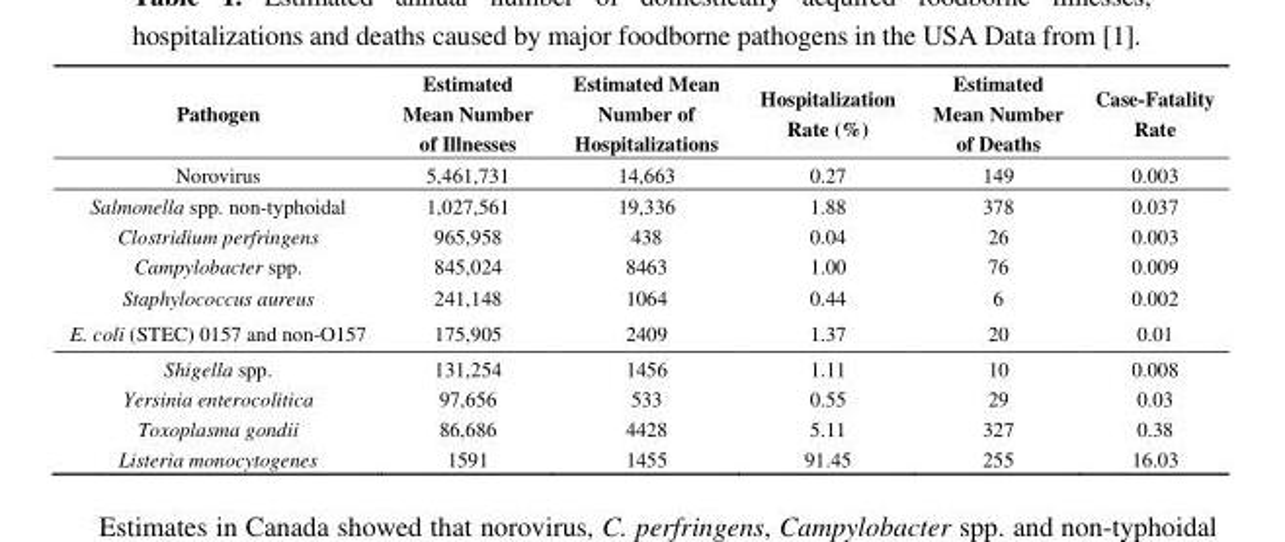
<table><thead><tr><td>Pathogen</td><td>Estimated Mean Number of Illnesses</td><td>Estimated Mean Number of Hospitalizations</td><td>Hospitalization Rate (%)</td><td>Estimated Mean Number of Deaths</td><td>Case-Fatality Rate</td></tr></thead><tbody><tr><td>Norovirus</td><td>5,461,731</td><td>14,663</td><td>0.27</td><td>149</td><td>0.003</td></tr><tr><td>Salmonella spp. non-typhoidal</td><td>1,027,561</td><td>19,336</td><td>1.88</td><td>378</td><td>0.037</td></tr><tr><td>Clostridium perfringens</td><td>965,958</td><td>438</td><td>0.04</td><td>26</td><td>0.003</td></tr><tr><td>Campylobacter spp.</td><td>845,024</td><td>8463</td><td>1.00</td><td>76</td><td>0.009</td></tr><tr><td>Staphylococcus aureus</td><td>241,148</td><td>1064</td><td>0.44</td><td>6</td><td>0.002</td></tr><tr><td>E. coli (STEC) 0157 and non-O157</td><td>175,905</td><td>2409</td><td>1.37</td><td>20</td><td>0.01</td></tr><tr><td>Shigella spp.</td><td>131,254</td><td>1456</td><td>1.11</td><td>10</td><td>0.008</td></tr><tr><td>Yersinia enterocolitica</td><td>97,656</td><td>533</td><td>0.55</td><td>29</td><td>0.03</td></tr><tr><td>Toxoplasma gondii</td><td>86,686</td><td>4428</td><td>5.11</td><td>327</td><td>0.38</td></tr><tr><td>Listeria monocytogenes</td><td>1591</td><td>1455</td><td>91.45</td><td>255</td><td>16.03</td></tr></tbody></table>